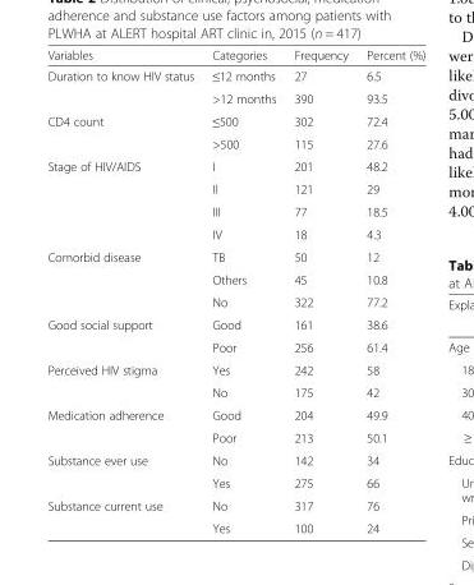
<table><thead><tr><td>Variables</td><td>Categories</td><td>Frequency</td><td>Percent (%)</td></tr></thead><tbody><tr><td rowspan="2">Duration to know HIV status</td><td>≤12 months</td><td>27</td><td>6.5</td></tr><tr><td>&gt;12 months</td><td>390</td><td>93.5</td></tr><tr><td rowspan="2">CD4 count</td><td>≤500</td><td>302</td><td>72.4</td></tr><tr><td>&gt;500</td><td>115</td><td>27.6</td></tr><tr><td rowspan="4">Stage of HIV/AIDS</td><td>I</td><td>201</td><td>48.2</td></tr><tr><td>II</td><td>121</td><td>29</td></tr><tr><td>III</td><td>77</td><td>18.5</td></tr><tr><td>IV</td><td>18</td><td>4.3</td></tr><tr><td rowspan="3">Comorbid disease</td><td>TB</td><td>50</td><td>12</td></tr><tr><td>Others</td><td>45</td><td>10.8</td></tr><tr><td>No</td><td>322</td><td>77.2</td></tr><tr><td rowspan="2">Good social support</td><td>Good</td><td>161</td><td>38.6</td></tr><tr><td>Poor</td><td>256</td><td>61.4</td></tr><tr><td rowspan="2">Perceived HIV stigma</td><td>Yes</td><td>242</td><td>58</td></tr><tr><td>No</td><td>175</td><td>42</td></tr><tr><td rowspan="2">Medication adherence</td><td>Good</td><td>204</td><td>49.9</td></tr><tr><td>Poor</td><td>213</td><td>50.1</td></tr><tr><td rowspan="2">Substance ever use</td><td>No</td><td>142</td><td>34</td></tr><tr><td>Yes</td><td>275</td><td>66</td></tr><tr><td rowspan="2">Substance current use</td><td>No</td><td>317</td><td>76</td></tr><tr><td>Yes</td><td>100</td><td>24</td></tr></tbody></table>